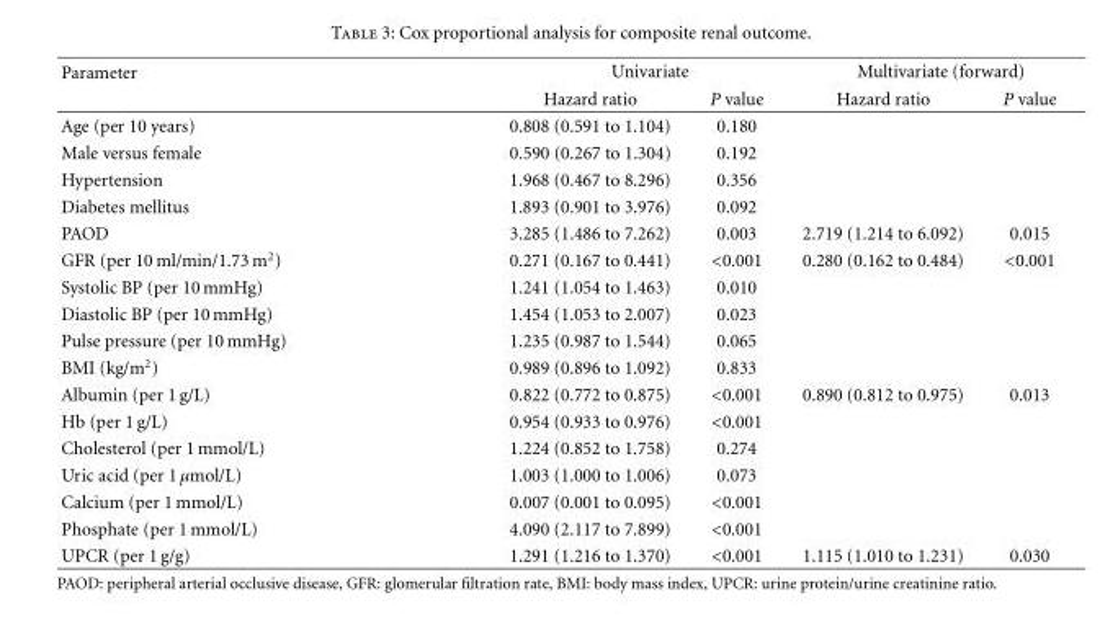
<table><thead><tr><td rowspan="2">Parameter</td><td colspan="2">Univariate</td><td colspan="2">Multivariate (forward)</td></tr><tr><td>Hazard ratio</td><td>P value</td><td>Hazard ratio</td><td>P value</td></tr></thead><tbody><tr><td>Age (per 10 years)</td><td>0.808 (0.591 to 1.104)</td><td>0.180</td><td></td><td></td></tr><tr><td>Male versus female</td><td>0.590 (0.267 to 1.304)</td><td>0.192</td><td></td><td></td></tr><tr><td>Hypertension</td><td>1.968 (0.467 to 8.296)</td><td>0.356</td><td></td><td></td></tr><tr><td>Diabetes mellitus</td><td>1.893 (0.901 to 3.976)</td><td>0.092</td><td></td><td></td></tr><tr><td>PAOD</td><td>3.285 (1.486 to 7.262)</td><td>0.003</td><td>2.719 (1.214 to 6.092)</td><td>0.015</td></tr><tr><td>GFR (per 10 ml/min/1.73 m<sup>2</sup>)</td><td>0.271 (0.167 to 0.441)</td><td>&lt;0.001</td><td>0.280 (0.162 to 0.484)</td><td>&lt;0.001</td></tr><tr><td>Systolic BP (per 10 mmHg)</td><td>1.241 (1.054 to 1.463)</td><td>0.010</td><td></td><td></td></tr><tr><td>Diastolic BP (per 10 mmHg)</td><td>1.454 (1.053 to 2.007)</td><td>0.023</td><td></td><td></td></tr><tr><td>Pulse pressure (per 10 mmHg)</td><td>1.235 (0.987 to 1.544)</td><td>0.065</td><td></td><td></td></tr><tr><td>BMI (kg/m<sup>2</sup>)</td><td>0.989 (0.896 to 1.092)</td><td>0.833</td><td></td><td></td></tr><tr><td>Albumin (per 1 g/L)</td><td>0.822 (0.772 to 0.875)</td><td>&lt;0.001</td><td>0.890 (0.812 to 0.975)</td><td>0.013</td></tr><tr><td>Hb (per 1 g/L)</td><td>0.954 (0.933 to 0.976)</td><td>&lt;0.001</td><td></td><td></td></tr><tr><td>Cholesterol (per 1 mmol/L)</td><td>1.224 (0.852 to 1.758)</td><td>0.274</td><td></td><td></td></tr><tr><td>Uric acid (per 1 μmol/L)</td><td>1.003 (1.000 to 1.006)</td><td>0.073</td><td></td><td></td></tr><tr><td>Calcium (per 1 mmol/L)</td><td>0.007 (0.001 to 0.095)</td><td>&lt;0.001</td><td></td><td></td></tr><tr><td>Phosphate (per 1 mmol/L)</td><td>4.090 (2.117 to 7.899)</td><td>&lt;0.001</td><td></td><td></td></tr><tr><td>UPCR (per 1 g/g)</td><td>1.291 (1.216 to 1.370)</td><td>&lt;0.001</td><td>1.115 (1.010 to 1.231)</td><td>0.030</td></tr></tbody></table>